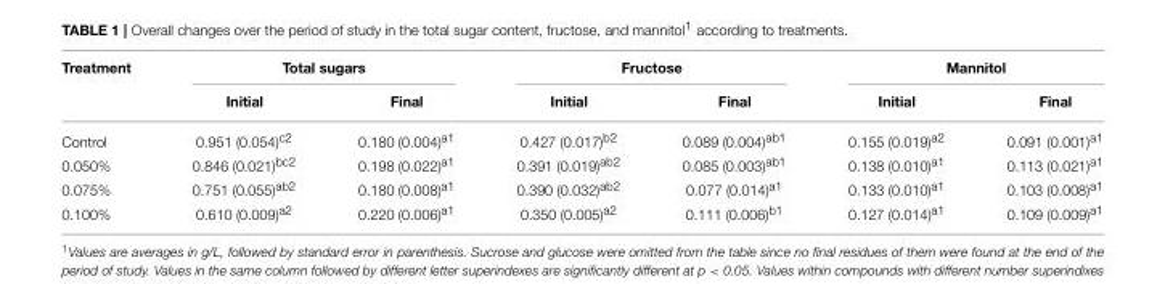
<table><thead><tr><td rowspan="2">Treatment</td><td colspan="2">Total sugars</td><td colspan="2">Fructose</td><td colspan="2">Mannitol</td></tr><tr><td>Initial</td><td>Final</td><td>Initial</td><td>Final</td><td>Initial</td><td>Final</td></tr></thead><tbody><tr><td>Control</td><td>0.951 (0.054)<sup>c2</sup></td><td>0.180 (0.004)<sup>a1</sup></td><td>0.427 (0.017)<sup>b2</sup></td><td>0.089 (0.004)<sup>ab1</sup></td><td>0.155 (0.019)<sup>a2</sup></td><td>0.091 (0.001)<sup>a1</sup></td></tr><tr><td>0.050%</td><td>0.846 (0.021)<sup>bc2</sup></td><td>0.198 (0.022)<sup>a1</sup></td><td>0.391 (0.019)<sup>ab2</sup></td><td>0.085 (0.003)<sup>ab1</sup></td><td>0.138 (0.010)<sup>a1</sup></td><td>0.113 (0.021)<sup>a1</sup></td></tr><tr><td>0.075%</td><td>0.751 (0.055)<sup>ab2</sup></td><td>0.180 (0.008)<sup>a1</sup></td><td>0.390 (0.032)<sup>ab2</sup></td><td>0.077 (0.014)<sup>a1</sup></td><td>0.133 (0.010)<sup>a1</sup></td><td>0.103 (0.008)<sup>a1</sup></td></tr><tr><td>0.100%</td><td>0.610 (0.009)<sup>a2</sup></td><td>0.220 (0.006)<sup>a1</sup></td><td>0.350 (0.005)<sup>a2</sup></td><td>0.111 (0.006)<sup>b1</sup></td><td>0.127 (0.014)<sup>a1</sup></td><td>0.109 (0.009)<sup>a1</sup></td></tr></tbody></table>